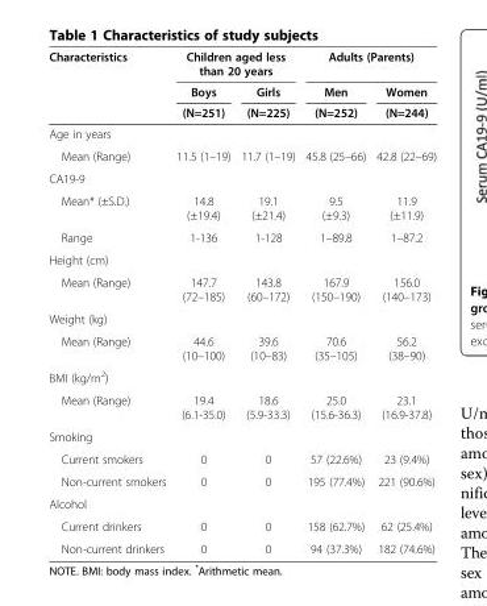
<table><thead><tr><td rowspan="3">Characteristics</td><td colspan="2">Children aged less than 20 years</td><td colspan="2">Adults (Parents)</td></tr><tr><td rowspan="2">Boys (N=251)</td><td rowspan="2">Girls (N=225)</td><td rowspan="2">Men (N=252)</td><td rowspan="2">Women (N=244)</td></tr><tr></tr></thead><tbody><tr><td colspan="5">Age in years</td></tr><tr><td>Mean (Range)</td><td>11.5 (1–19)</td><td>11.7 (1–19)</td><td>45.8 (25–66)</td><td>42.8 (22–69)</td></tr><tr><td colspan="5">CA19-9</td></tr><tr><td>Mean* (±S.D.)</td><td>14.8 (±19.4)</td><td>19.1 (±21.4)</td><td>9.5 (±9.3)</td><td>11.9 (±11.9)</td></tr><tr><td>Range</td><td>1-136</td><td>1-128</td><td>1–89.8</td><td>1–87.2</td></tr><tr><td colspan="5">Height (cm)</td></tr><tr><td>Mean (Range)</td><td>147.7 (72–185)</td><td>143.8 (60–172)</td><td>167.9 (150–190)</td><td>156.0 (140–173)</td></tr><tr><td colspan="5">Weight (kg)</td></tr><tr><td>Mean (Range)</td><td>44.6 (10–100)</td><td>39.6 (10–83)</td><td>70.6 (35–105)</td><td>56.2 (38–90)</td></tr><tr><td colspan="5">BMI (kg/m<sup>2</sup>)</td></tr><tr><td>Mean (Range)</td><td>19.4 (6.1-35.0)</td><td>18.6 (5.9-33.3)</td><td>25.0 (15.6-36.3)</td><td>23.1 (16.9-37.8)</td></tr><tr><td colspan="5">Smoking</td></tr><tr><td>Current smokers</td><td>0</td><td>0</td><td>57 (22.6%)</td><td>23 (9.4%)</td></tr><tr><td>Non-current smokers</td><td>0</td><td>0</td><td>195 (77.4%)</td><td>221 (90.6%)</td></tr><tr><td colspan="5">Alcohol</td></tr><tr><td>Current drinkers</td><td>0</td><td>0</td><td>158 (62.7%)</td><td>62 (25.4%)</td></tr><tr><td>Non-current drinkers</td><td>0</td><td>0</td><td>94 (37.3%)</td><td>182 (74.6%)</td></tr></tbody></table>